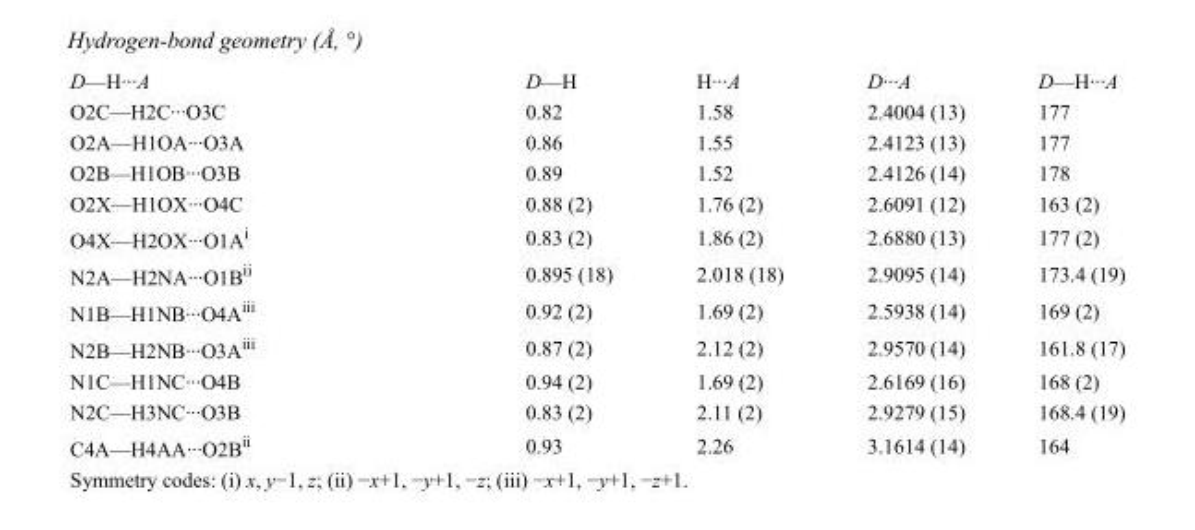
<table><tbody><tr><td>D—H···A</td><td>D—H</td><td>H···A</td><td>D···A</td><td>D—H···A</td></tr><tr><td>O2C—H2C···O3C</td><td>0.82</td><td>1.58</td><td>2.4004 (13)</td><td>177</td></tr><tr><td>O2A—H1OA···O3A</td><td>0.86</td><td>1.55</td><td>2.4123 (13)</td><td>177</td></tr><tr><td>O2B—H1OB···O3B</td><td>0.89</td><td>1.52</td><td>2.4126 (14)</td><td>178</td></tr><tr><td>O2X—H1OX···O4C</td><td>0.88 (2)</td><td>1.76 (2)</td><td>2.6091 (12)</td><td>163 (2)</td></tr><tr><td>O4X—H2OX···O1A<sup>i</sup></td><td>0.83 (2)</td><td>1.86 (2)</td><td>2.6880 (13)</td><td>177 (2)</td></tr><tr><td>N2A—H2NA···O1B<sup>ii</sup></td><td>0.895 (18)</td><td>2.018 (18)</td><td>2.9095 (14)</td><td>173.4 (19)</td></tr><tr><td>N1B—H1NB···O4A<sup>iii</sup></td><td>0.92 (2)</td><td>1.69 (2)</td><td>2.5938 (14)</td><td>169 (2)</td></tr><tr><td>N2B—H2NB···O3A<sup>iii</sup></td><td>0.87 (2)</td><td>2.12 (2)</td><td>2.9570 (14)</td><td>161.8 (17)</td></tr><tr><td>N1C—H1NC···O4B</td><td>0.94 (2)</td><td>1.69 (2)</td><td>2.6169 (16)</td><td>168 (2)</td></tr><tr><td>N2C—H3NC···O3B</td><td>0.83 (2)</td><td>2.11 (2)</td><td>2.9279 (15)</td><td>168.4 (19)</td></tr><tr><td>C4A—H4AA···O2B<sup>ii</sup></td><td>0.93</td><td>2.26</td><td>3.1614 (14)</td><td>164</td></tr></tbody></table>